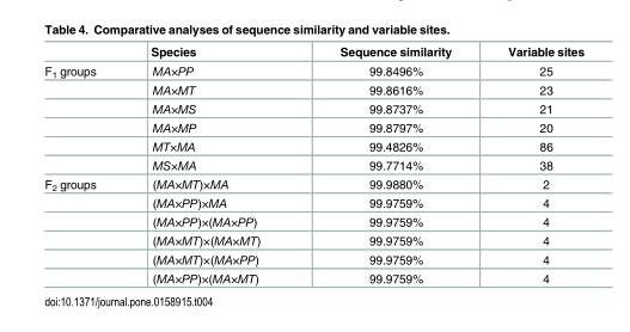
<table><thead><tr><td></td><td>Species</td><td>Sequence similarity</td><td>Variable sites</td></tr></thead><tbody><tr><td rowspan="6">F<sub>1</sub> groups</td><td>MA×PP</td><td>99.8496%</td><td>25</td></tr><tr><td>MA×MT</td><td>99.8616%</td><td>23</td></tr><tr><td>MA×MS</td><td>99.8737%</td><td>21</td></tr><tr><td>MA×MP</td><td>99.8797%</td><td>20</td></tr><tr><td>MT×MA</td><td>99.4826%</td><td>86</td></tr><tr><td>MS×MA</td><td>99.7714%</td><td>38</td></tr><tr><td rowspan="6">F<sub>2</sub> groups</td><td>(MA×MT)×MA</td><td>99.9880%</td><td>2</td></tr><tr><td>(MA×PP)×MA</td><td>99.9759%</td><td>4</td></tr><tr><td>(MA×PP)×(MA×PP)</td><td>99.9759%</td><td>4</td></tr><tr><td>(MA×MT)×(MA×MT)</td><td>99.9759%</td><td>4</td></tr><tr><td>(MA×MT)×(MA×PP)</td><td>99.9759%</td><td>4</td></tr><tr><td>(MA×PP)×(MA×MT)</td><td>99.9759%</td><td>4</td></tr></tbody></table>